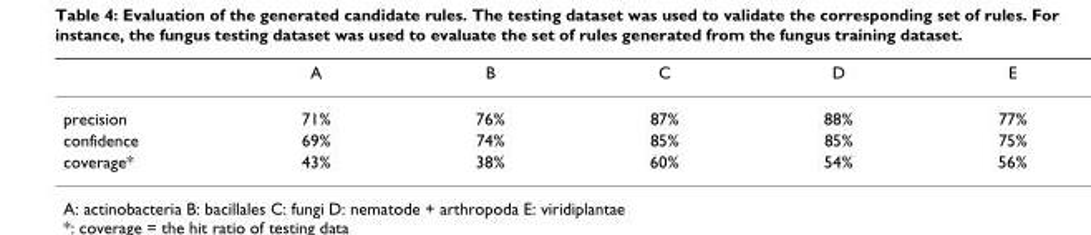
<table><thead><tr><td></td><td>A</td><td>B</td><td>C</td><td>D</td><td>E</td></tr></thead><tbody><tr><td>precision</td><td>71%</td><td>76%</td><td>87%</td><td>88%</td><td>77%</td></tr><tr><td>confidence</td><td>69%</td><td>74%</td><td>85%</td><td>85%</td><td>75%</td></tr><tr><td>coverage*</td><td>43%</td><td>38%</td><td>60%</td><td>54%</td><td>56%</td></tr></tbody></table>